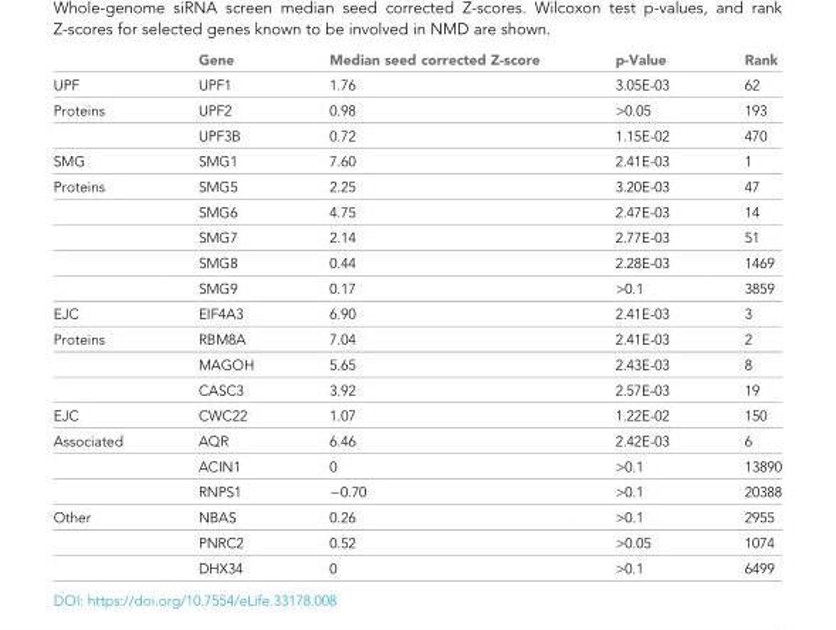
<table><thead><tr><td></td><td>Gene</td><td>Median seed corrected Z-score</td><td>p-Value</td><td>Rank</td></tr></thead><tbody><tr><td>UPF</td><td>UPF1</td><td>1.76</td><td>3.05E-03</td><td>62</td></tr><tr><td rowspan="2">Proteins</td><td>UPF2</td><td>0.98</td><td>&gt;0.05</td><td>193</td></tr><tr><td>UPF3B</td><td>0.72</td><td>1.15E-02</td><td>470</td></tr><tr><td>SMG</td><td>SMG1</td><td>7.60</td><td>2.41E-03</td><td>1</td></tr><tr><td rowspan="5">Proteins</td><td>SMG5</td><td>2.25</td><td>3.20E-03</td><td>47</td></tr><tr><td>SMG6</td><td>4.75</td><td>2.47E-03</td><td>14</td></tr><tr><td>SMG7</td><td>2.14</td><td>2.77E-03</td><td>51</td></tr><tr><td>SMG8</td><td>0.44</td><td>2.28E-03</td><td>1469</td></tr><tr><td>SMG9</td><td>0.17</td><td>&gt;0.1</td><td>3859</td></tr><tr><td>EJC</td><td>EIF4A3</td><td>6.90</td><td>2.41E-03</td><td>3</td></tr><tr><td rowspan="3">Proteins</td><td>RBM8A</td><td>7.04</td><td>2.41E-03</td><td>2</td></tr><tr><td>MAGOH</td><td>5.65</td><td>2.43E-03</td><td>8</td></tr><tr><td>CASC3</td><td>3.92</td><td>2.57E-03</td><td>19</td></tr><tr><td>EJC</td><td>CWC22</td><td>1.07</td><td>1.22E-02</td><td>150</td></tr><tr><td rowspan="3">Associated</td><td>AQR</td><td>6.46</td><td>2.42E-03</td><td>6</td></tr><tr><td>ACIN1</td><td>0</td><td>&gt;0.1</td><td>13890</td></tr><tr><td>RNPS1</td><td>−0.70</td><td>&gt;0.1</td><td>20388</td></tr><tr><td rowspan="3">Other</td><td>NBAS</td><td>0.26</td><td>&gt;0.1</td><td>2955</td></tr><tr><td>PNRC2</td><td>0.52</td><td>&gt;0.05</td><td>1074</td></tr><tr><td>DHX34</td><td>0</td><td>&gt;0.1</td><td>6499</td></tr></tbody></table>